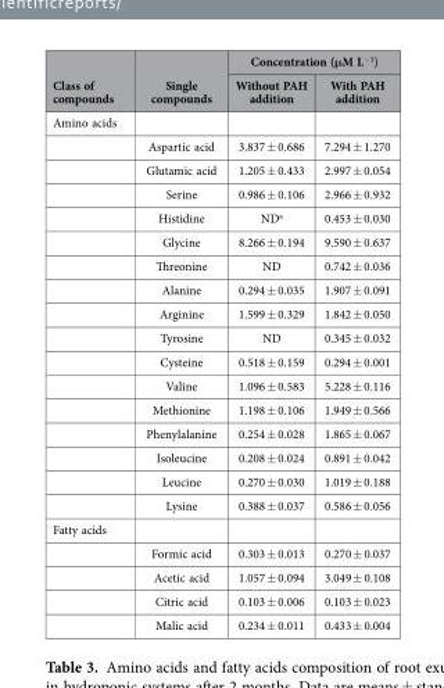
<table><thead><tr><td rowspan="2">Class of compounds</td><td rowspan="2">Single compounds</td><td colspan="2">Concentration (μM L<sup>−1</sup>)</td></tr><tr><td>Without PAH addition</td><td>With PAH addition</td></tr></thead><tbody><tr><td colspan="4">Amino acids</td></tr><tr><td></td><td>Aspartic acid</td><td>3.837 ± 0.686</td><td>7.294 ± 1.270</td></tr><tr><td></td><td>Glutamic acid</td><td>1.205 ± 0.433</td><td>2.997 ± 0.054</td></tr><tr><td></td><td>Serine</td><td>0.986 ± 0.106</td><td>2.966 ± 0.932</td></tr><tr><td></td><td>Histidine</td><td>ND<sup>a</sup></td><td>0.453 ± 0.030</td></tr><tr><td></td><td>Glycine</td><td>8.266 ± 0.194</td><td>9.590 ± 0.637</td></tr><tr><td></td><td>Threonine</td><td>ND</td><td>0.742 ± 0.036</td></tr><tr><td></td><td>Alanine</td><td>0.294 ± 0.035</td><td>1.907 ± 0.091</td></tr><tr><td></td><td>Arginine</td><td>1.599 ± 0.329</td><td>1.842 ± 0.050</td></tr><tr><td></td><td>Tyrosine</td><td>ND</td><td>0.345 ± 0.032</td></tr><tr><td></td><td>Cysteine</td><td>0.518 ± 0.159</td><td>0.294 ± 0.001</td></tr><tr><td></td><td>Valine</td><td>1.096 ± 0.583</td><td>5.228 ± 0.116</td></tr><tr><td></td><td>Methionine</td><td>1.198 ± 0.106</td><td>1.949 ± 0.566</td></tr><tr><td></td><td>Phenylalanine</td><td>0.254 ± 0.028</td><td>1.865 ± 0.067</td></tr><tr><td></td><td>Isoleucine</td><td>0.208 ± 0.024</td><td>0.891 ± 0.042</td></tr><tr><td></td><td>Leucine</td><td>0.270 ± 0.030</td><td>1.019 ± 0.188</td></tr><tr><td></td><td>Lysine</td><td>0.388 ± 0.037</td><td>0.586 ± 0.056</td></tr><tr><td colspan="4">Fatty acids</td></tr><tr><td></td><td>Formic acid</td><td>0.303 ± 0.013</td><td>0.270 ± 0.037</td></tr><tr><td></td><td>Acetic acid</td><td>1.057 ± 0.094</td><td>3.049 ± 0.108</td></tr><tr><td></td><td>Citric acid</td><td>0.103 ± 0.006</td><td>0.103 ± 0.023</td></tr><tr><td></td><td>Malic acid</td><td>0.234 ± 0.011</td><td>0.433 ± 0.004</td></tr></tbody></table>